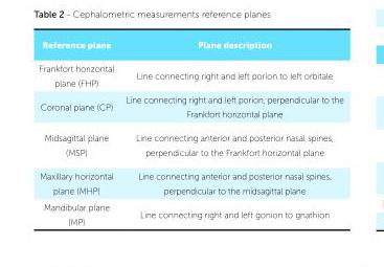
<table><thead><tr><td>Reference plane</td><td>Plane description</td></tr></thead><tbody><tr><td>Frankfort horizontal plane (FHP)</td><td>Line connecting right and left porion to left orbitale</td></tr><tr><td>Coronal plane (CP)</td><td>Line connecting right and left porion, perpendicular to the Frankfort horizontal plane</td></tr><tr><td>Midsagittal plane (MSP)</td><td>Line connecting anterior and posterior nasal spines, perpendicular to the Frankfort horizontal plane</td></tr><tr><td>Maxillary horizontal plane (MHP)</td><td>Line connecting anterior and posterior nasal spines, perpendicular to the midsagittal plane</td></tr><tr><td>Mandibular plane (MP)</td><td>Line connecting right and left gonion to gnathion</td></tr></tbody></table>